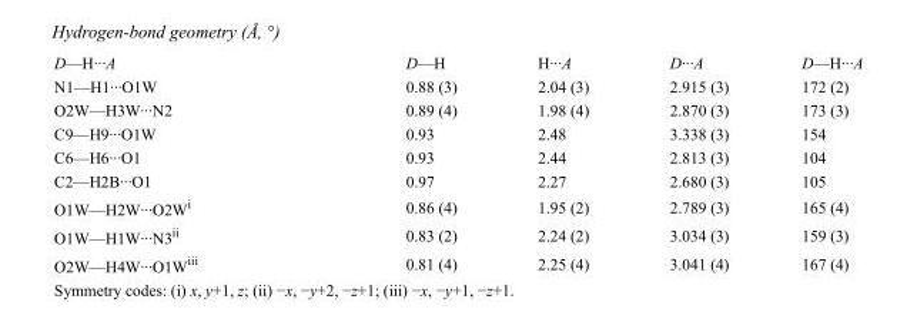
<table><tbody><tr><td>D—H···A</td><td>D—H</td><td>H···A</td><td>D···A</td><td>D—H···A</td></tr><tr><td>N1—H1···O1W</td><td>0.88 (3)</td><td>2.04 (3)</td><td>2.915 (3)</td><td>172 (2)</td></tr><tr><td>O2W—H3W···N2</td><td>0.89 (4)</td><td>1.98 (4)</td><td>2.870 (3)</td><td>173 (3)</td></tr><tr><td>C9—H9···O1W</td><td>0.93</td><td>2.48</td><td>3.338 (3)</td><td>154</td></tr><tr><td>C6—H6···O1</td><td>0.93</td><td>2.44</td><td>2.813 (3)</td><td>104</td></tr><tr><td>C2—H2B···O1</td><td>0.97</td><td>2.27</td><td>2.680 (3)</td><td>105</td></tr><tr><td>O1W—H2W···O2W<sup>i</sup></td><td>0.86 (4)</td><td>1.95 (2)</td><td>2.789 (3)</td><td>165 (4)</td></tr><tr><td>O1W—H1W···N3<sup>ii</sup></td><td>0.83 (2)</td><td>2.24 (2)</td><td>3.034 (3)</td><td>159 (3)</td></tr><tr><td>O2W—H4W···O1W<sup>iii</sup></td><td>0.81 (4)</td><td>2.25 (4)</td><td>3.041 (4)</td><td>167 (4)</td></tr></tbody></table>